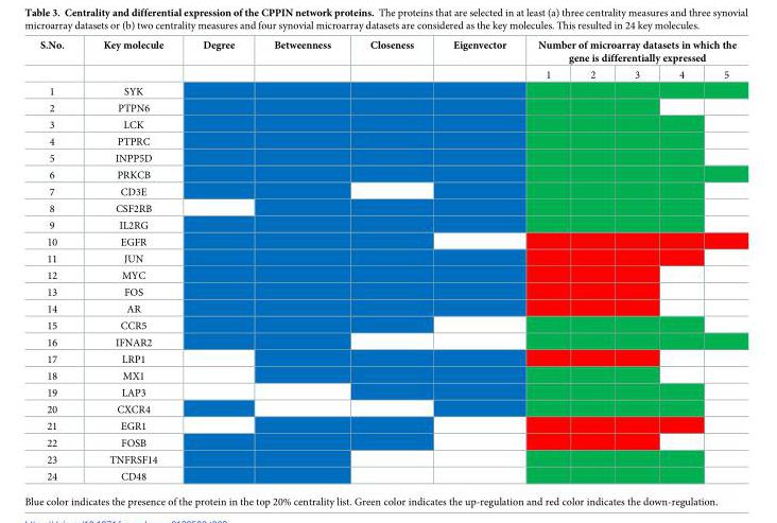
<table><thead><tr><td rowspan="2">S.No.</td><td rowspan="2">Key molecule</td><td rowspan="2">Degree</td><td rowspan="2">Betweenness</td><td rowspan="2">Closeness</td><td rowspan="2">Eigenvector</td><td colspan="5">Number of microarray datasets in which the gene is differentially expressed</td></tr><tr><td>1</td><td>2</td><td>3</td><td>4</td><td>5</td></tr></thead><tbody><tr><td>1</td><td>SYK</td><td></td><td></td><td></td><td></td><td></td><td></td><td></td><td></td><td></td></tr><tr><td>2</td><td>PTPN6</td><td></td><td></td><td></td><td></td><td></td><td></td><td></td><td></td><td></td></tr><tr><td>3</td><td>LCK</td><td></td><td></td><td></td><td></td><td></td><td></td><td></td><td></td><td></td></tr><tr><td>4</td><td>PTPRC</td><td></td><td></td><td></td><td></td><td></td><td></td><td></td><td></td><td></td></tr><tr><td>5</td><td>INPP5D</td><td></td><td></td><td></td><td></td><td></td><td></td><td></td><td></td><td></td></tr><tr><td>6</td><td>PRKCB</td><td></td><td></td><td></td><td></td><td></td><td></td><td></td><td></td><td></td></tr><tr><td>7</td><td>CD3E</td><td></td><td></td><td></td><td></td><td></td><td></td><td></td><td></td><td></td></tr><tr><td>8</td><td>CSF2RB</td><td></td><td></td><td></td><td></td><td></td><td></td><td></td><td></td><td></td></tr><tr><td>9</td><td>IL2RG</td><td></td><td></td><td></td><td></td><td></td><td></td><td></td><td></td><td></td></tr><tr><td>10</td><td>EGFR</td><td></td><td></td><td></td><td></td><td></td><td></td><td></td><td></td><td></td></tr><tr><td>11</td><td>JUN</td><td></td><td></td><td></td><td></td><td></td><td></td><td></td><td></td><td></td></tr><tr><td>12</td><td>MYC</td><td></td><td></td><td></td><td></td><td></td><td></td><td></td><td></td><td></td></tr><tr><td>13</td><td>FOS</td><td></td><td></td><td></td><td></td><td></td><td></td><td></td><td></td><td></td></tr><tr><td>14</td><td>AR</td><td></td><td></td><td></td><td></td><td></td><td></td><td></td><td></td><td></td></tr><tr><td>15</td><td>CCR5</td><td></td><td></td><td></td><td></td><td></td><td></td><td></td><td></td><td></td></tr><tr><td>16</td><td>IFNAR2</td><td></td><td></td><td></td><td></td><td></td><td></td><td></td><td></td><td></td></tr><tr><td>17</td><td>LRP1</td><td></td><td></td><td></td><td></td><td></td><td></td><td></td><td></td><td></td></tr><tr><td>18</td><td>MX1</td><td></td><td></td><td></td><td></td><td></td><td></td><td></td><td></td><td></td></tr><tr><td>19</td><td>LAP3</td><td></td><td></td><td></td><td></td><td></td><td></td><td></td><td></td><td></td></tr><tr><td>20</td><td>CXCR4</td><td></td><td></td><td></td><td></td><td></td><td></td><td></td><td></td><td></td></tr><tr><td>21</td><td>EGR1</td><td></td><td></td><td></td><td></td><td></td><td></td><td></td><td></td><td></td></tr><tr><td>22</td><td>FOSB</td><td></td><td></td><td></td><td></td><td></td><td></td><td></td><td></td><td></td></tr><tr><td>23</td><td>TNFRSF14</td><td></td><td></td><td></td><td></td><td></td><td></td><td></td><td></td><td></td></tr><tr><td>24</td><td>CD48</td><td></td><td></td><td></td><td></td><td></td><td></td><td></td><td></td><td></td></tr></tbody></table>